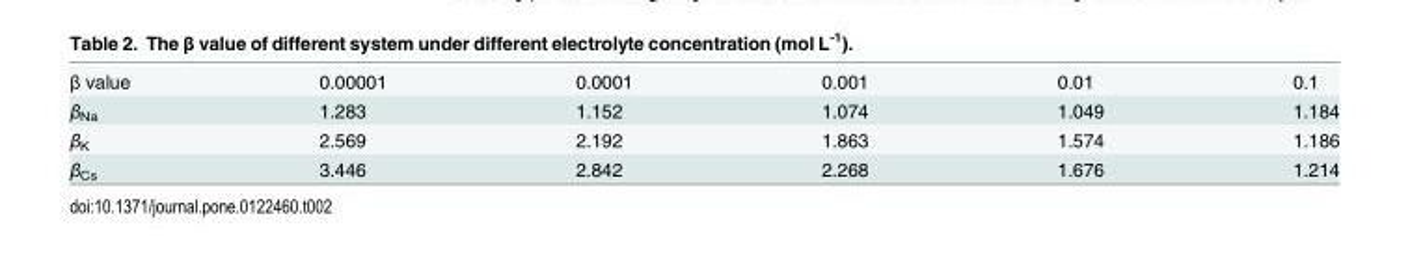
<table><tbody><tr><td>β value</td><td>0.00001</td><td>0.0001</td><td>0.001</td><td>0.01</td><td>0.1</td></tr><tr><td>β<sub>Na</sub></td><td>1.283</td><td>1.152</td><td>1.074</td><td>1.049</td><td>1.184</td></tr><tr><td>β<sub>K</sub></td><td>2.569</td><td>2.192</td><td>1.863</td><td>1.574</td><td>1.186</td></tr><tr><td>β<sub>Cs</sub></td><td>3.446</td><td>2.842</td><td>2.268</td><td>1.676</td><td>1.214</td></tr></tbody></table>